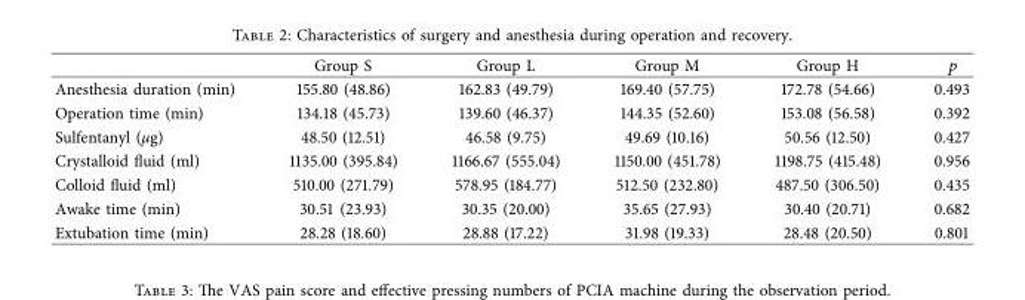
<table><thead><tr><td></td><td>Group S</td><td>Group L</td><td>Group M</td><td>Group H</td><td>p</td></tr></thead><tbody><tr><td>Anesthesia duration (min)</td><td>155.80 (48.86)</td><td>162.83 (49.79)</td><td>169.40 (57.75)</td><td>172.78 (54.66)</td><td>0.493</td></tr><tr><td>Operation time (min)</td><td>134.18 (45.73)</td><td>139.60 (46.37)</td><td>144.35 (52.60)</td><td>153.08 (56.58)</td><td>0.392</td></tr><tr><td>Sulfentanyl (μg)</td><td>48.50 (12.51)</td><td>46.58 (9.75)</td><td>49.69 (10.16)</td><td>50.56 (12.50)</td><td>0.427</td></tr><tr><td>Crystalloid fuid (ml)</td><td>1135.00 (395.84)</td><td>1166.67 (555.04)</td><td>1150.00 (451.78)</td><td>1198.75 (415.48)</td><td>0.956</td></tr><tr><td>Colloid fuid (ml)</td><td>510.00 (271.79)</td><td>578.95 (184.77)</td><td>512.50 (232.80)</td><td>487.50 (306.50)</td><td>0.435</td></tr><tr><td>Awake time (min)</td><td>30.51 (23.93)</td><td>30.35 (20.00)</td><td>35.65 (27.93)</td><td>30.40 (20.71)</td><td>0.682</td></tr><tr><td>Extubation time (min)</td><td>28.28 (18.60)</td><td>28.88 (17.22)</td><td>31.98 (19.33)</td><td>28.48 (20.50)</td><td>0.801</td></tr></tbody></table>